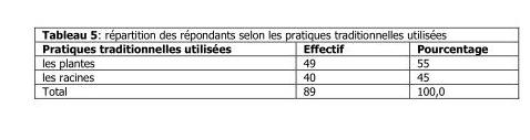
<table><thead><tr><td>Pratiques traditionnelles utilisées</td><td>Effectif</td><td>Pourcentage</td></tr></thead><tbody><tr><td>les plantes</td><td>49</td><td>55</td></tr><tr><td>les racines</td><td>40</td><td>45</td></tr><tr><td>Total</td><td>89</td><td>100,0</td></tr></tbody></table>